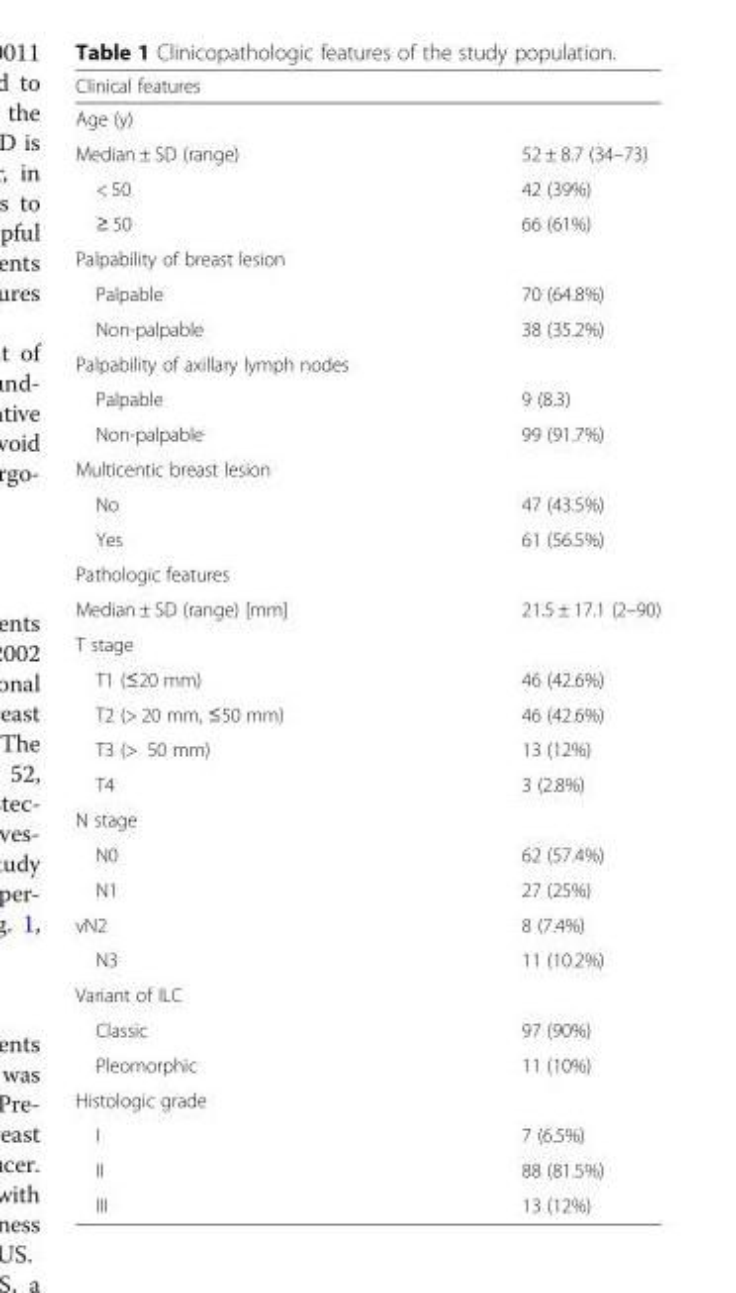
<table><thead><tr><td rowspan="2" colspan="2">Clinical features Age (y)</td></tr><tr></tr><tr><td>Median ± SD (range)</td><td>52 ± 8.7 (34–73)</td></tr></thead><tbody><tr><td>&lt; 50</td><td>42 (39%)</td></tr><tr><td>≥ 50</td><td>66 (61%)</td></tr><tr><td colspan="2">Palpability of breast lesion</td></tr><tr><td>Palpable</td><td>70 (64.8%)</td></tr><tr><td>Non-palpable</td><td>38 (35.2%)</td></tr><tr><td colspan="2">Palpability of axillary lymph nodes</td></tr><tr><td>Palpable</td><td>9 (8.3)</td></tr><tr><td>Non-palpable</td><td>99 (91.7%)</td></tr><tr><td colspan="2">Multicentic breast lesion</td></tr><tr><td>No</td><td>47 (43.5%)</td></tr><tr><td>Yes</td><td>61 (56.5%)</td></tr><tr><td colspan="2">Pathologic features</td></tr><tr><td>Median ± SD (range) [mm]</td><td>21.5 ± 17.1 (2–90)</td></tr><tr><td colspan="2">T stage</td></tr><tr><td>T1 (≤20 mm)</td><td>46 (42.6%)</td></tr><tr><td>T2 (&gt; 20 mm, ≤50 mm)</td><td>46 (42.6%)</td></tr><tr><td>T3 (&gt; 50 mm)</td><td>13 (12%)</td></tr><tr><td>T4</td><td>3 (2.8%)</td></tr><tr><td colspan="2">N stage</td></tr><tr><td>N0</td><td>62 (57.4%)</td></tr><tr><td>N1</td><td>27 (25%)</td></tr><tr><td>vN2</td><td>8 (7.4%)</td></tr><tr><td>N3</td><td>11 (10.2%)</td></tr><tr><td colspan="2">Variant of ILC</td></tr><tr><td>Classic</td><td>97 (90%)</td></tr><tr><td>Pleomorphic</td><td>11 (10%)</td></tr><tr><td colspan="2">Histologic grade</td></tr><tr><td>I</td><td>7 (6.5%)</td></tr><tr><td>II</td><td>88 (81.5%)</td></tr><tr><td>III</td><td>13 (12%)</td></tr></tbody></table>